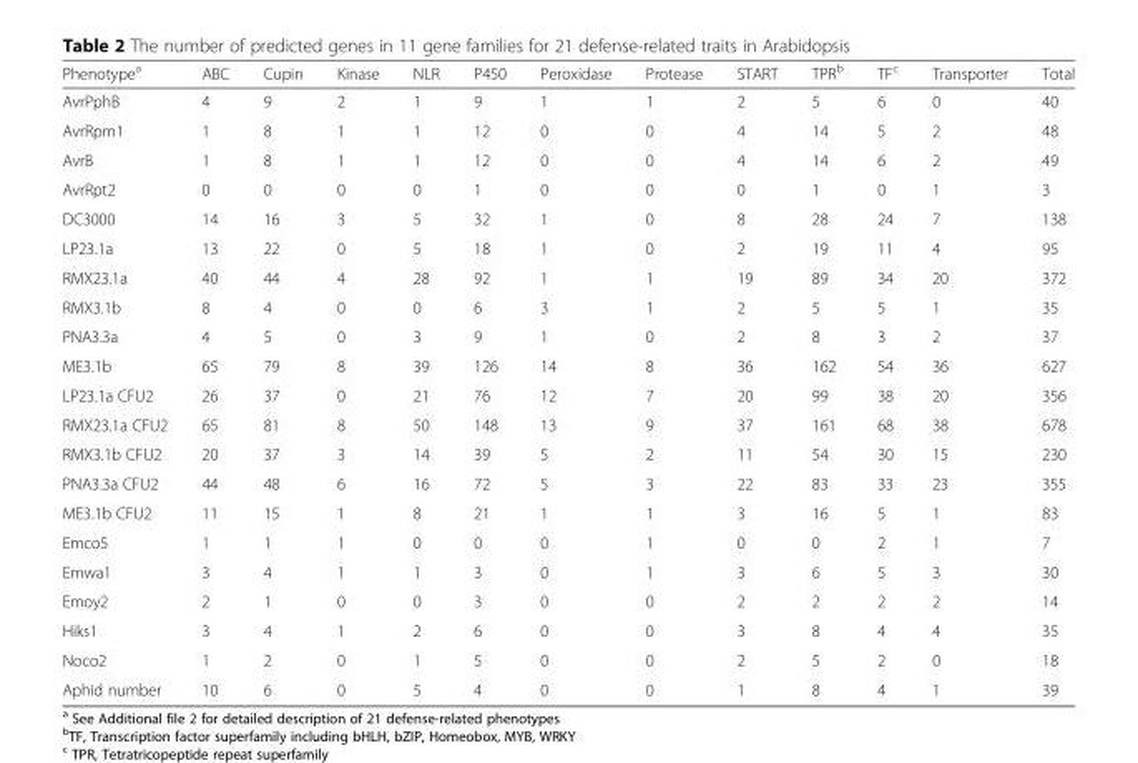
<table><thead><tr><td>Phenotype<sup>a</sup></td><td>ABC</td><td>Cupin</td><td>Kinase</td><td>NLR</td><td>P450</td><td>Peroxidase</td><td>Protease</td><td>START</td><td>TPR<sup>b</sup></td><td>TF<sup>c</sup></td><td>Transporter</td><td>Total</td></tr></thead><tbody><tr><td>AvrPphB</td><td>4</td><td>9</td><td>2</td><td>1</td><td>9</td><td>1</td><td>1</td><td>2</td><td>5</td><td>6</td><td>0</td><td>40</td></tr><tr><td>AvrRpm1</td><td>1</td><td>8</td><td>1</td><td>1</td><td>12</td><td>0</td><td>0</td><td>4</td><td>14</td><td>5</td><td>2</td><td>48</td></tr><tr><td>AvrB</td><td>1</td><td>8</td><td>1</td><td>1</td><td>12</td><td>0</td><td>0</td><td>4</td><td>14</td><td>6</td><td>2</td><td>49</td></tr><tr><td>AvrRpt2</td><td>0</td><td>0</td><td>0</td><td>0</td><td>1</td><td>0</td><td>0</td><td>0</td><td>1</td><td>0</td><td>1</td><td>3</td></tr><tr><td>DC3000</td><td>14</td><td>16</td><td>3</td><td>5</td><td>32</td><td>1</td><td>0</td><td>8</td><td>28</td><td>24</td><td>7</td><td>138</td></tr><tr><td>LP23.1a</td><td>13</td><td>22</td><td>0</td><td>5</td><td>18</td><td>1</td><td>0</td><td>2</td><td>19</td><td>11</td><td>4</td><td>95</td></tr><tr><td>RMX23.1a</td><td>40</td><td>44</td><td>4</td><td>28</td><td>92</td><td>1</td><td>1</td><td>19</td><td>89</td><td>34</td><td>20</td><td>372</td></tr><tr><td>RMX3.1b</td><td>8</td><td>4</td><td>0</td><td>0</td><td>6</td><td>3</td><td>1</td><td>2</td><td>5</td><td>5</td><td>1</td><td>35</td></tr><tr><td>PNA3.3a</td><td>4</td><td>5</td><td>0</td><td>3</td><td>9</td><td>1</td><td>0</td><td>2</td><td>8</td><td>3</td><td>2</td><td>37</td></tr><tr><td>ME3.1b</td><td>65</td><td>79</td><td>8</td><td>39</td><td>126</td><td>14</td><td>8</td><td>36</td><td>162</td><td>54</td><td>36</td><td>627</td></tr><tr><td>LP23.1a CFU2</td><td>26</td><td>37</td><td>0</td><td>21</td><td>76</td><td>12</td><td>7</td><td>20</td><td>99</td><td>38</td><td>20</td><td>356</td></tr><tr><td>RMX23.1a CFU2</td><td>65</td><td>81</td><td>8</td><td>50</td><td>148</td><td>13</td><td>9</td><td>37</td><td>161</td><td>68</td><td>38</td><td>678</td></tr><tr><td>RMX3.1b CFU2</td><td>20</td><td>37</td><td>3</td><td>14</td><td>39</td><td>5</td><td>2</td><td>11</td><td>54</td><td>30</td><td>15</td><td>230</td></tr><tr><td>PNA3.3a CFU2</td><td>44</td><td>48</td><td>6</td><td>16</td><td>72</td><td>5</td><td>3</td><td>22</td><td>83</td><td>33</td><td>23</td><td>355</td></tr><tr><td>ME3.1b CFU2</td><td>11</td><td>15</td><td>1</td><td>8</td><td>21</td><td>1</td><td>1</td><td>3</td><td>16</td><td>5</td><td>1</td><td>83</td></tr><tr><td>Emco5</td><td>1</td><td>1</td><td>1</td><td>0</td><td>0</td><td>0</td><td>1</td><td>0</td><td>0</td><td>2</td><td>1</td><td>7</td></tr><tr><td>Emwa1</td><td>3</td><td>4</td><td>1</td><td>1</td><td>3</td><td>0</td><td>1</td><td>3</td><td>6</td><td>5</td><td>3</td><td>30</td></tr><tr><td>Emoy2</td><td>2</td><td>1</td><td>0</td><td>0</td><td>3</td><td>0</td><td>0</td><td>2</td><td>2</td><td>2</td><td>2</td><td>14</td></tr><tr><td>Hiks1</td><td>3</td><td>4</td><td>1</td><td>2</td><td>6</td><td>0</td><td>0</td><td>3</td><td>8</td><td>4</td><td>4</td><td>35</td></tr><tr><td>Noco2</td><td>1</td><td>2</td><td>0</td><td>1</td><td>5</td><td>0</td><td>0</td><td>2</td><td>5</td><td>2</td><td>0</td><td>18</td></tr><tr><td>Aphid number</td><td>10</td><td>6</td><td>0</td><td>5</td><td>4</td><td>0</td><td>0</td><td>1</td><td>8</td><td>4</td><td>1</td><td>39</td></tr></tbody></table>